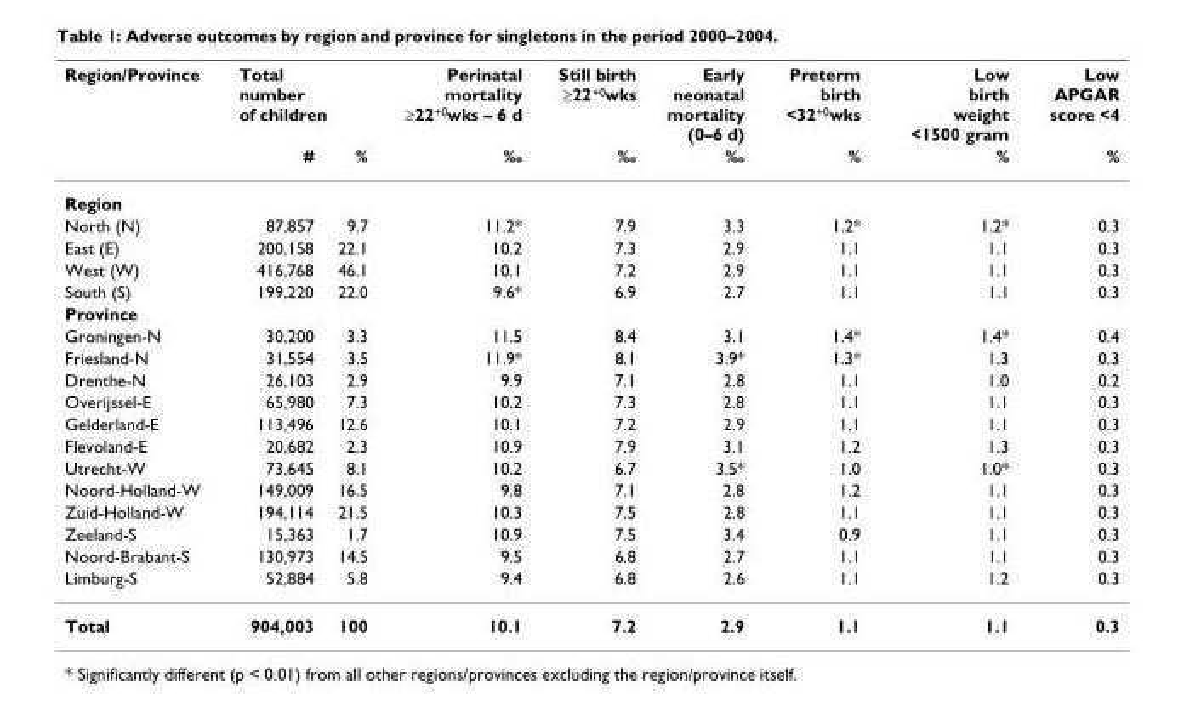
<table><thead><tr><td rowspan="2">Region/Province</td><td colspan="2">Total number of children</td><td rowspan="2">Perinatal mortality ≥22<sup>+0</sup>wks – 6 d ‰</td><td rowspan="2">Still birth ≥22<sup>+0</sup>wks ‰</td><td rowspan="2">Early neonatal mortality (0–6 d) ‰</td><td rowspan="2">Preterm birth &lt;32<sup>+0</sup>wks %</td><td rowspan="2">Low birth weight &lt;1500 gram %</td><td rowspan="2">Low APGAR score &lt;4 %</td></tr><tr><td>#</td><td>%</td></tr></thead><tbody><tr><td colspan="9">Region</td></tr><tr><td>North (N)</td><td>87,857</td><td>9.7</td><td>11.2*</td><td>7.9</td><td>3.3</td><td>1.2*</td><td>1.2*</td><td>0.3</td></tr><tr><td>East (E)</td><td>200,158</td><td>22.1</td><td>10.2</td><td>7.3</td><td>2.9</td><td>1.1</td><td>1.1</td><td>0.3</td></tr><tr><td>West (W)</td><td>416,768</td><td>46.1</td><td>10.1</td><td>7.2</td><td>2.9</td><td>1.1</td><td>1.1</td><td>0.3</td></tr><tr><td>South (S)</td><td>199,220</td><td>22.0</td><td>9.6*</td><td>6.9</td><td>2.7</td><td>1.1</td><td>1.1</td><td>0.3</td></tr><tr><td colspan="9">Province</td></tr><tr><td>Groningen-N</td><td>30,200</td><td>3.3</td><td>11.5</td><td>8.4</td><td>3.1</td><td>1.4*</td><td>1.4*</td><td>0.4</td></tr><tr><td>Friesland-N</td><td>31,554</td><td>3.5</td><td>11.9*</td><td>8.1</td><td>3.9*</td><td>1.3*</td><td>1.3</td><td>0.3</td></tr><tr><td>Drenthe-N</td><td>26,103</td><td>2.9</td><td>9.9</td><td>7.1</td><td>2.8</td><td>1.1</td><td>1.0</td><td>0.2</td></tr><tr><td>Overijssel-E</td><td>65,980</td><td>7.3</td><td>10.2</td><td>7.3</td><td>2.8</td><td>1.1</td><td>1.1</td><td>0.3</td></tr><tr><td>Gelderland-E</td><td>113,496</td><td>12.6</td><td>10.1</td><td>7.2</td><td>2.9</td><td>1.1</td><td>1.1</td><td>0.3</td></tr><tr><td>Flevoland-E</td><td>20,682</td><td>2.3</td><td>10.9</td><td>7.9</td><td>3.1</td><td>1.2</td><td>1.3</td><td>0.3</td></tr><tr><td>Utrecht-W</td><td>73,645</td><td>8.1</td><td>10.2</td><td>6.7</td><td>3.5*</td><td>1.0</td><td>1.0*</td><td>0.3</td></tr><tr><td>Noord-Holland-W</td><td>149,009</td><td>16.5</td><td>9.8</td><td>7.1</td><td>2.8</td><td>1.2</td><td>1.1</td><td>0.3</td></tr><tr><td>Zuid-Holland-W</td><td>194,114</td><td>21.5</td><td>10.3</td><td>7.5</td><td>2.8</td><td>1.1</td><td>1.1</td><td>0.3</td></tr><tr><td>Zeeland-S</td><td>15,363</td><td>1.7</td><td>10.9</td><td>7.5</td><td>3.4</td><td>0.9</td><td>1.1</td><td>0.3</td></tr><tr><td>Noord-Brabant-S</td><td>130,973</td><td>14.5</td><td>9.5</td><td>6.8</td><td>2.7</td><td>1.1</td><td>1.1</td><td>0.3</td></tr><tr><td>Limburg-S</td><td>52,884</td><td>5.8</td><td>9.4</td><td>6.8</td><td>2.6</td><td>1.1</td><td>1.2</td><td>0.3</td></tr><tr><td>Total</td><td>904,003</td><td>100</td><td>10.1</td><td>7.2</td><td>2.9</td><td>1.1</td><td>1.1</td><td>0.3</td></tr></tbody></table>